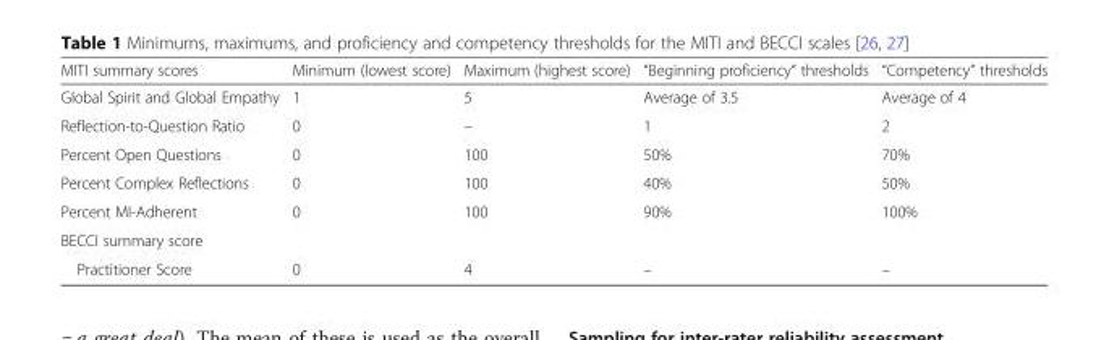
<table><thead><tr><td>MITI summary scores</td><td>Minimum (lowest score)</td><td>Maximum (highest score)</td><td>“Beginning proficiency” thresholds</td><td>“Competency” thresholds</td></tr></thead><tbody><tr><td>Global Spirit and Global Empathy</td><td>1</td><td>5</td><td>Average of 3.5</td><td>Average of 4</td></tr><tr><td>Reflection-to-Question Ratio</td><td>0</td><td>–</td><td>1</td><td>2</td></tr><tr><td>Percent Open Questions</td><td>0</td><td>100</td><td>50%</td><td>70%</td></tr><tr><td>Percent Complex Reflections</td><td>0</td><td>100</td><td>40%</td><td>50%</td></tr><tr><td>Percent MI-Adherent</td><td>0</td><td>100</td><td>90%</td><td>100%</td></tr><tr><td colspan="5">BECCI summary score</td></tr><tr><td>Practitioner Score</td><td>0</td><td>4</td><td>–</td><td>–</td></tr></tbody></table>